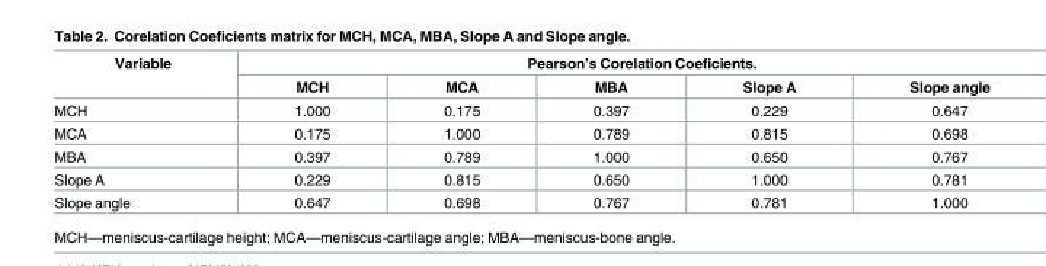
<table><thead><tr><td rowspan="2">Variable</td><td colspan="5">Pearson’s Corelation Coeficients.</td></tr><tr><td>MCH</td><td>MCA</td><td>MBA</td><td>Slope A</td><td>Slope angle</td></tr></thead><tbody><tr><td>MCH</td><td>1.000</td><td>0.175</td><td>0.397</td><td>0.229</td><td>0.647</td></tr><tr><td>MCA</td><td>0.175</td><td>1.000</td><td>0.789</td><td>0.815</td><td>0.698</td></tr><tr><td>MBA</td><td>0.397</td><td>0.789</td><td>1.000</td><td>0.650</td><td>0.767</td></tr><tr><td>Slope A</td><td>0.229</td><td>0.815</td><td>0.650</td><td>1.000</td><td>0.781</td></tr><tr><td>Slope angle</td><td>0.647</td><td>0.698</td><td>0.767</td><td>0.781</td><td>1.000</td></tr></tbody></table>